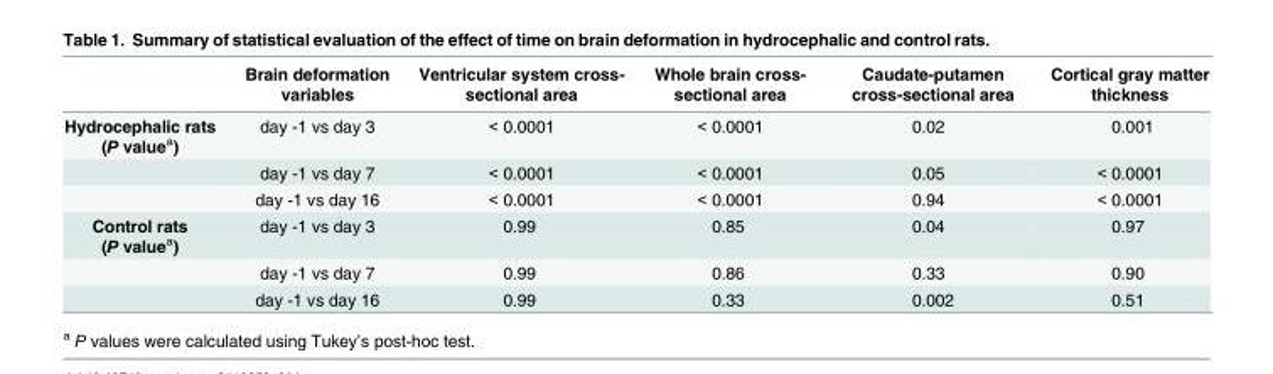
<table><thead><tr><td></td><td>Brain deformation variables</td><td>Ventricular system cross- sectional area</td><td>Whole brain cross- sectional area</td><td>Caudate-putamen cross-sectional area</td><td>Cortical gray matter thickness</td></tr></thead><tbody><tr><td rowspan="3">Hydrocephalic rats (P value<sup>a</sup>)</td><td>day -1 vs day 3</td><td>&lt; 0.0001</td><td>&lt; 0.0001</td><td>0.02</td><td>0.001</td></tr><tr><td>day -1 vs day 7</td><td>&lt; 0.0001</td><td>&lt; 0.0001</td><td>0.05</td><td>&lt; 0.0001</td></tr><tr><td>day -1 vs day 16</td><td>&lt; 0.0001</td><td>&lt; 0.0001</td><td>0.94</td><td>&lt; 0.0001</td></tr><tr><td rowspan="3">Control rats (P value<sup>a</sup>)</td><td>day -1 vs day 3</td><td>0.99</td><td>0.85</td><td>0.04</td><td>0.97</td></tr><tr><td>day -1 vs day 7</td><td>0.99</td><td>0.86</td><td>0.33</td><td>0.90</td></tr><tr><td>day -1 vs day 16</td><td>0.99</td><td>0.33</td><td>0.002</td><td>0.51</td></tr></tbody></table>